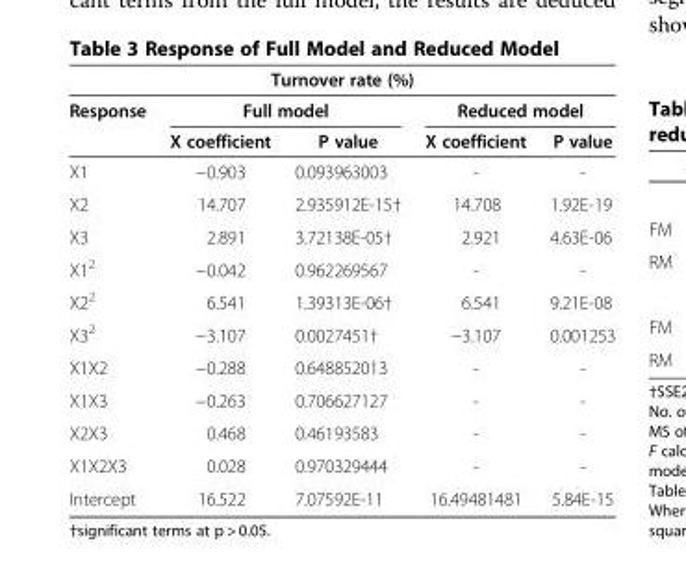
<table><thead><tr><td colspan="5">Turnover rate (%)</td></tr><tr><td rowspan="2">Response</td><td colspan="2">Full model</td><td colspan="2">Reduced model</td></tr><tr><td>X coefficient</td><td>P value</td><td>X coefficient</td><td>P value</td></tr></thead><tbody><tr><td>X1</td><td>−0.903</td><td>0.093963003</td><td>-</td><td>-</td></tr><tr><td>X2</td><td>14.707</td><td>2.935912E-15†</td><td>14.708</td><td>1.92E-19</td></tr><tr><td>X3</td><td>2.891</td><td>3.72138E-05†</td><td>2.921</td><td>4.63E-06</td></tr><tr><td>X1<sup>2</sup></td><td>−0.042</td><td>0.962269567</td><td>-</td><td>-</td></tr><tr><td>X2<sup>2</sup></td><td>6.541</td><td>1.39313E-06†</td><td>6.541</td><td>9.21E-08</td></tr><tr><td>X3<sup>2</sup></td><td>−3.107</td><td>0.0027451†</td><td>−3.107</td><td>0.001253</td></tr><tr><td>X1X2</td><td>−0.288</td><td>0.648852013</td><td>-</td><td>-</td></tr><tr><td>X1X3</td><td>−0.263</td><td>0.706627127</td><td>-</td><td>-</td></tr><tr><td>X2X3</td><td>0.468</td><td>0.46193583</td><td>-</td><td>-</td></tr><tr><td>X1X2X3</td><td>0.028</td><td>0.970329444</td><td>-</td><td>-</td></tr><tr><td>Intercept</td><td>16.522</td><td>7.07592E-11</td><td>16.49481481</td><td>5.84E-15</td></tr></tbody></table>